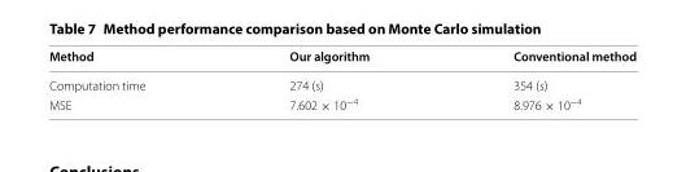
<table><thead><tr><td>Method</td><td>Our algorithm</td><td>Conventional method</td></tr></thead><tbody><tr><td>Computation time</td><td>274 (s)</td><td>354 (s)</td></tr><tr><td>MSE</td><td>7.602 × 10<sup>−4</sup></td><td>8.976 × 10<sup>−4</sup></td></tr></tbody></table>